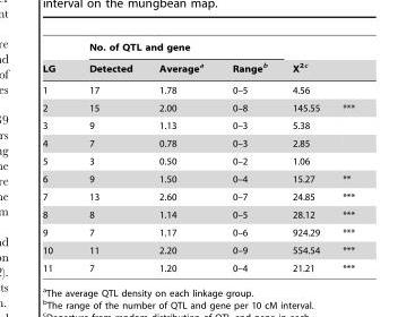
<table><thead><tr><td rowspan="2">LG</td><td colspan="3">No. of QTL and gene</td><td></td><td></td></tr><tr><td>Detected</td><td>Average<sup>a</sup></td><td>Range<sup>b</sup></td><td colspan="2">X<sup>2c</sup></td></tr></thead><tbody><tr><td>1</td><td>17</td><td>1.78</td><td>0–5</td><td>4.56</td><td></td></tr><tr><td>2</td><td>15</td><td>2.00</td><td>0–8</td><td>145.55</td><td>***</td></tr><tr><td>3</td><td>9</td><td>1.13</td><td>0–3</td><td>5.38</td><td></td></tr><tr><td>4</td><td>7</td><td>0.78</td><td>0–3</td><td>2.85</td><td></td></tr><tr><td>5</td><td>3</td><td>0.50</td><td>0–2</td><td>1.06</td><td></td></tr><tr><td>6</td><td>9</td><td>1.50</td><td>0–4</td><td>15.27</td><td>**</td></tr><tr><td>7</td><td>13</td><td>2.60</td><td>0–7</td><td>24.85</td><td>***</td></tr><tr><td>8</td><td>8</td><td>1.14</td><td>0–5</td><td>28.12</td><td>***</td></tr><tr><td>9</td><td>7</td><td>1.17</td><td>0–6</td><td>924.29</td><td>***</td></tr><tr><td>10</td><td>11</td><td>2.20</td><td>0–9</td><td>554.54</td><td>***</td></tr><tr><td>11</td><td>7</td><td>1.20</td><td>0–4</td><td>21.21</td><td>***</td></tr></tbody></table>